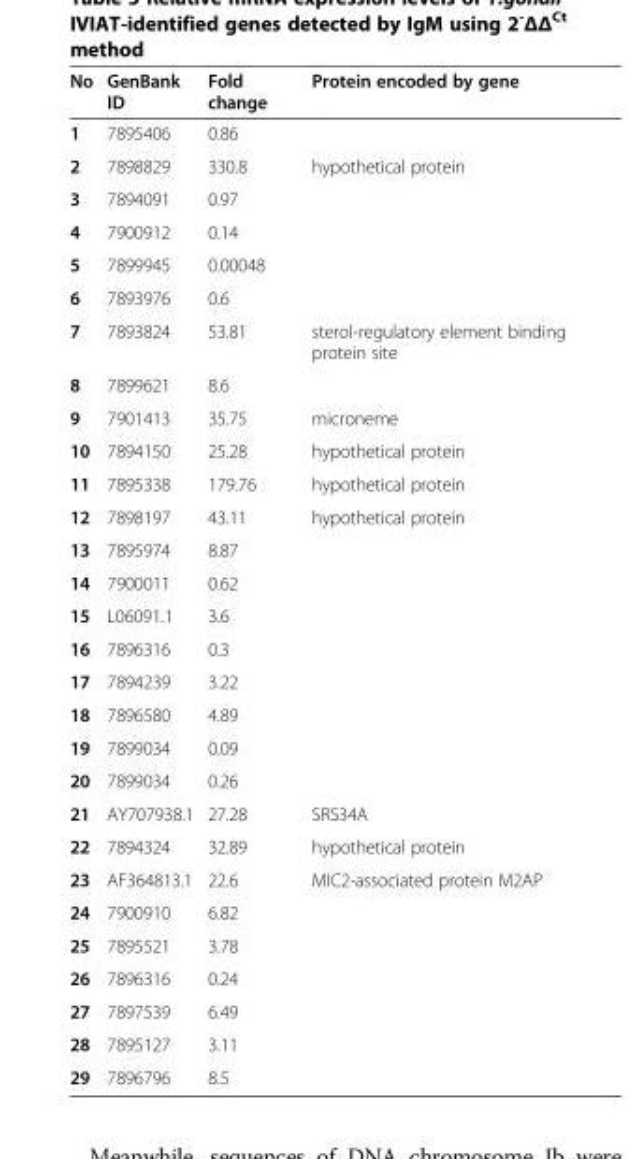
<table><thead><tr><td>No</td><td>GenBank ID</td><td>Fold change</td><td>Protein encoded by gene</td></tr></thead><tbody><tr><td>1</td><td>7895406</td><td>0.86</td><td></td></tr><tr><td>2</td><td>7898829</td><td>330.8</td><td>hypothetical protein</td></tr><tr><td>3</td><td>7894091</td><td>0.97</td><td></td></tr><tr><td>4</td><td>7900912</td><td>0.14</td><td></td></tr><tr><td>5</td><td>7899945</td><td>0.00048</td><td></td></tr><tr><td>6</td><td>7893976</td><td>0.6</td><td></td></tr><tr><td>7</td><td>7893824</td><td>53.81</td><td>sterol-regulatory element binding protein site</td></tr><tr><td>8</td><td>7899621</td><td>8.6</td><td></td></tr><tr><td>9</td><td>7901413</td><td>35.75</td><td>microneme</td></tr><tr><td>10</td><td>7894150</td><td>25.28</td><td>hypothetical protein</td></tr><tr><td>11</td><td>7895338</td><td>179.76</td><td>hypothetical protein</td></tr><tr><td>12</td><td>7898197</td><td>43.11</td><td>hypothetical protein</td></tr><tr><td>13</td><td>7895974</td><td>8.87</td><td></td></tr><tr><td>14</td><td>7900011</td><td>0.62</td><td></td></tr><tr><td>15</td><td>L06091.1</td><td>3.6</td><td></td></tr><tr><td>16</td><td>7896316</td><td>0.3</td><td></td></tr><tr><td>17</td><td>7894239</td><td>3.22</td><td></td></tr><tr><td>18</td><td>7896580</td><td>4.89</td><td></td></tr><tr><td>19</td><td>7899034</td><td>0.09</td><td></td></tr><tr><td>20</td><td>7899034</td><td>0.26</td><td></td></tr><tr><td>21</td><td>AY707938.1</td><td>27.28</td><td>SRS34A</td></tr><tr><td>22</td><td>7894324</td><td>32.89</td><td>hypothetical protein</td></tr><tr><td>23</td><td>AF364813.1</td><td>22.6</td><td>MIC2-associated protein M2AP</td></tr><tr><td>24</td><td>7900910</td><td>6.82</td><td></td></tr><tr><td>25</td><td>7895521</td><td>3.78</td><td></td></tr><tr><td>26</td><td>7896316</td><td>0.24</td><td></td></tr><tr><td>27</td><td>7897539</td><td>6.49</td><td></td></tr><tr><td>28</td><td>7895127</td><td>3.11</td><td></td></tr><tr><td>29</td><td>7896796</td><td>8.5</td><td></td></tr></tbody></table>